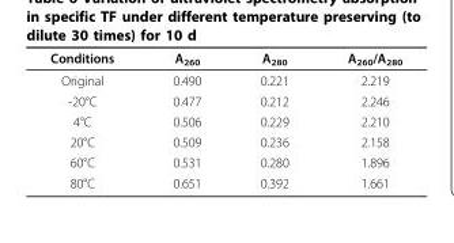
<table><thead><tr><td>Conditions</td><td>A<sub>260</sub></td><td>A<sub>280</sub></td><td>A<sub>260</sub>/A<sub>280</sub></td></tr></thead><tbody><tr><td>Original</td><td>0.490</td><td>0.221</td><td>2.219</td></tr><tr><td>-20°C</td><td>0.477</td><td>0.212</td><td>2.246</td></tr><tr><td>4°C</td><td>0.506</td><td>0.229</td><td>2.210</td></tr><tr><td>20°C</td><td>0.509</td><td>0.236</td><td>2.158</td></tr><tr><td>60°C</td><td>0.531</td><td>0.280</td><td>1.896</td></tr><tr><td>80°C</td><td>0.651</td><td>0.392</td><td>1.661</td></tr></tbody></table>